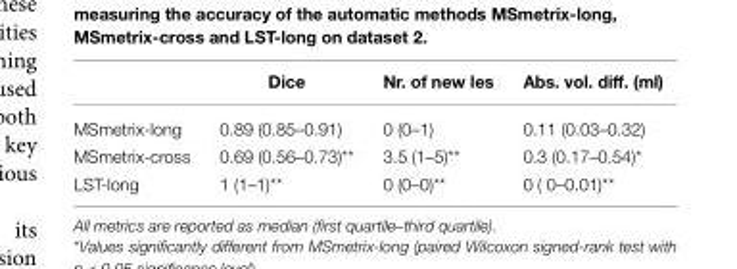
<table><thead><tr><td></td><td>Dice</td><td>Nr. of new les</td><td>Abs. vol. diff. (ml)</td></tr></thead><tbody><tr><td>MSmetrix-long</td><td>0.89 (0.85–0.91)</td><td>0 (0–1)</td><td>0.11 (0.03–0.32)</td></tr><tr><td>MSmetrix-cross</td><td>0.69 (0.56–0.73)**</td><td>3.5 (1–5)**</td><td>0.3 (0.17–0.54)*</td></tr><tr><td>LST-long</td><td>1 (1–1)**</td><td>0 (0–0)**</td><td>0 ( 0–0.01)**</td></tr></tbody></table>